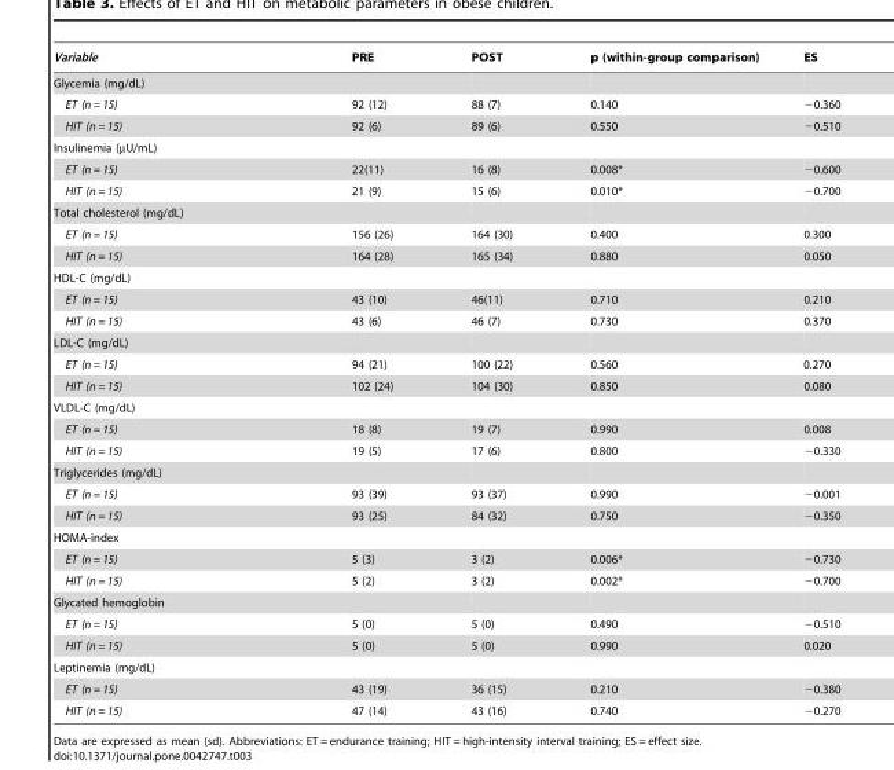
<table><thead><tr><td>Variable</td><td>PRE</td><td>POST</td><td>p (within-group comparison)</td><td>ES</td></tr></thead><tbody><tr><td colspan="5">Glycemia (mg/dL)</td></tr><tr><td>ET (n = 15)</td><td>92 (12)</td><td>88 (7)</td><td>0.140</td><td>−0.360</td></tr><tr><td>HIT (n = 15)</td><td>92 (6)</td><td>89 (6)</td><td>0.550</td><td>−0.510</td></tr><tr><td colspan="5">Insulinemia (µU/mL)</td></tr><tr><td>ET (n = 15)</td><td>22(11)</td><td>16 (8)</td><td>0.008*</td><td>−0.600</td></tr><tr><td>HIT (n = 15)</td><td>21 (9)</td><td>15 (6)</td><td>0.010*</td><td>−0.700</td></tr><tr><td colspan="5">Total cholesterol (mg/dL)</td></tr><tr><td>ET (n = 15)</td><td>156 (26)</td><td>164 (30)</td><td>0.400</td><td>0.300</td></tr><tr><td>HIT (n = 15)</td><td>164 (28)</td><td>165 (34)</td><td>0.880</td><td>0.050</td></tr><tr><td colspan="5">HDL-C (mg/dL)</td></tr><tr><td>ET (n = 15)</td><td>43 (10)</td><td>46(11)</td><td>0.710</td><td>0.210</td></tr><tr><td>HIT (n = 15)</td><td>43 (6)</td><td>46 (7)</td><td>0.730</td><td>0.370</td></tr><tr><td colspan="5">LDL-C (mg/dL)</td></tr><tr><td>ET (n = 15)</td><td>94 (21)</td><td>100 (22)</td><td>0.560</td><td>0.270</td></tr><tr><td>HIT (n = 15)</td><td>102 (24)</td><td>104 (30)</td><td>0.850</td><td>0.080</td></tr><tr><td colspan="5">VLDL-C (mg/dL)</td></tr><tr><td>ET (n = 15)</td><td>18 (8)</td><td>19 (7)</td><td>0.990</td><td>0.008</td></tr><tr><td>HIT (n = 15)</td><td>19 (5)</td><td>17 (6)</td><td>0.800</td><td>−0.330</td></tr><tr><td colspan="5">Triglycerides (mg/dL)</td></tr><tr><td>ET (n = 15)</td><td>93 (39)</td><td>93 (37)</td><td>0.990</td><td>−0.001</td></tr><tr><td>HIT (n = 15)</td><td>93 (25)</td><td>84 (32)</td><td>0.750</td><td>−0.350</td></tr><tr><td colspan="5">HOMA-index</td></tr><tr><td>ET (n = 15)</td><td>5 (3)</td><td>3 (2)</td><td>0.006*</td><td>−0.730</td></tr><tr><td>HIT (n = 15)</td><td>5 (2)</td><td>3 (2)</td><td>0.002*</td><td>−0.700</td></tr><tr><td colspan="5">Glycated hemoglobin</td></tr><tr><td>ET (n = 15)</td><td>5 (0)</td><td>5 (0)</td><td>0.490</td><td>−0.510</td></tr><tr><td>HIT (n = 15)</td><td>5 (0)</td><td>5 (0)</td><td>0.990</td><td>0.020</td></tr><tr><td colspan="5">Leptinemia (mg/dL)</td></tr><tr><td>ET (n = 15)</td><td>43 (19)</td><td>36 (15)</td><td>0.210</td><td>−0.380</td></tr><tr><td>HIT (n = 15)</td><td>47 (14)</td><td>43 (16)</td><td>0.740</td><td>−0.270</td></tr></tbody></table>